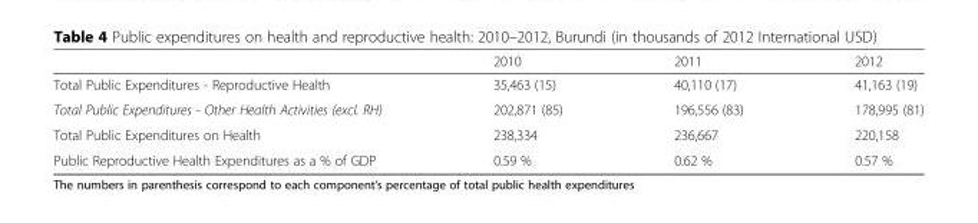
<table><thead><tr><td></td><td>2010</td><td>2011</td><td>2012</td></tr></thead><tbody><tr><td>Total Public Expenditures - Reproductive Health</td><td>35,463 (15)</td><td>40,110 (17)</td><td>41,163 (19)</td></tr><tr><td>Total Public Expenditures - Other Health Activities (excl. RH)</td><td>202,871 (85)</td><td>196,556 (83)</td><td>178,995 (81)</td></tr><tr><td>Total Public Expenditures on Health</td><td>238,334</td><td>236,667</td><td>220,158</td></tr><tr><td>Public Reproductive Health Expenditures as a % of GDP</td><td>0.59 %</td><td>0.62 %</td><td>0.57 %</td></tr></tbody></table>